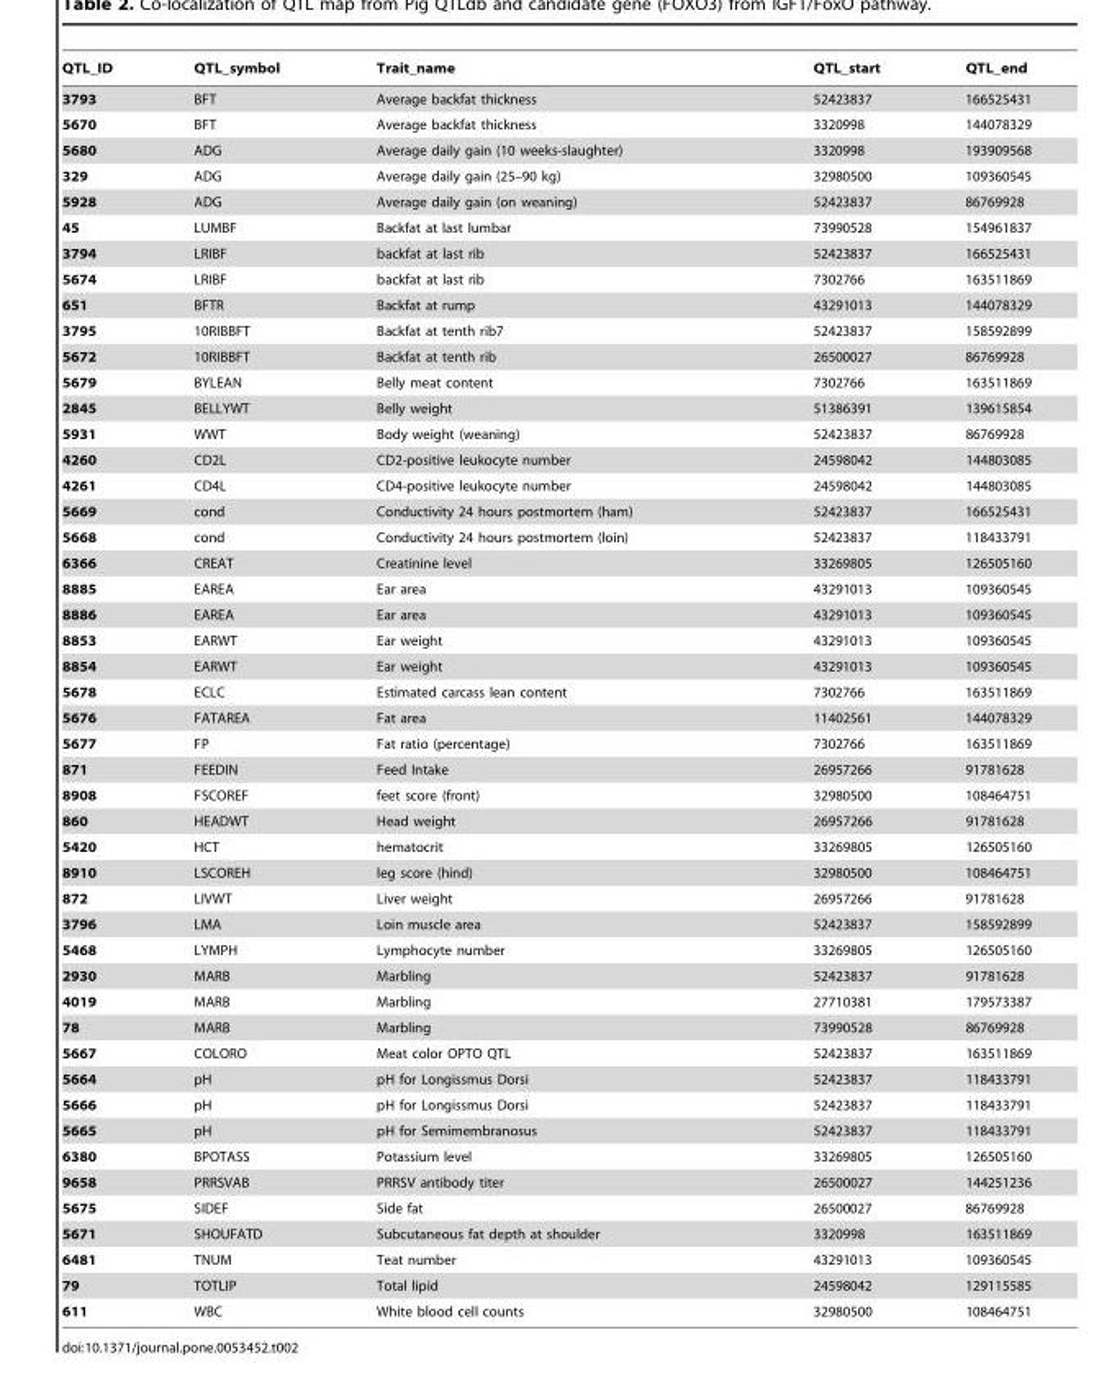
<table><thead><tr><td>QTL_ID</td><td>QTL_symbol</td><td>Trait_name</td><td>QTL_start</td><td>QTL_end</td></tr></thead><tbody><tr><td>3793</td><td>BFT</td><td>Average backfat thickness</td><td>52423837</td><td>166525431</td></tr><tr><td>5670</td><td>BFT</td><td>Average backfat thickness</td><td>3320998</td><td>144078329</td></tr><tr><td>5680</td><td>ADG</td><td>Average daily gain (10 weeks-slaughter)</td><td>3320998</td><td>193909568</td></tr><tr><td>329</td><td>ADG</td><td>Average daily gain (25–90 kg)</td><td>32980500</td><td>109360545</td></tr><tr><td>5928</td><td>ADG</td><td>Average daily gain (on weaning)</td><td>52423837</td><td>86769928</td></tr><tr><td>45</td><td>LUMBF</td><td>Backfat at last lumbar</td><td>73990528</td><td>154961837</td></tr><tr><td>3794</td><td>LRIBF</td><td>backfat at last rib</td><td>52423837</td><td>166525431</td></tr><tr><td>5674</td><td>LRIBF</td><td>backfat at last rib</td><td>7302766</td><td>163511869</td></tr><tr><td>651</td><td>BFTR</td><td>Backfat at rump</td><td>43291013</td><td>144078329</td></tr><tr><td>3795</td><td>10RIBBFT</td><td>Backfat at tenth rib7</td><td>52423837</td><td>158592899</td></tr><tr><td>5672</td><td>10RIBBFT</td><td>Backfat at tenth rib</td><td>26500027</td><td>86769928</td></tr><tr><td>5679</td><td>BYLEAN</td><td>Belly meat content</td><td>7302766</td><td>163511869</td></tr><tr><td>2845</td><td>BELLYWT</td><td>Belly weight</td><td>51386391</td><td>139615854</td></tr><tr><td>5931</td><td>WWT</td><td>Body weight (weaning)</td><td>52423837</td><td>86769928</td></tr><tr><td>4260</td><td>CD2L</td><td>CD2-positive leukocyte number</td><td>24598042</td><td>144803085</td></tr><tr><td>4261</td><td>CD4L</td><td>CD4-positive leukocyte number</td><td>24598042</td><td>144803085</td></tr><tr><td>5669</td><td>cond</td><td>Conductivity 24 hours postmortem (ham)</td><td>52423837</td><td>166525431</td></tr><tr><td>5668</td><td>cond</td><td>Conductivity 24 hours postmortem (loin)</td><td>52423837</td><td>118433791</td></tr><tr><td>6366</td><td>CREAT</td><td>Creatinine level</td><td>33269805</td><td>126505160</td></tr><tr><td>8885</td><td>EAREA</td><td>Ear area</td><td>43291013</td><td>109360545</td></tr><tr><td>8886</td><td>EAREA</td><td>Ear area</td><td>43291013</td><td>109360545</td></tr><tr><td>8853</td><td>EARWT</td><td>Ear weight</td><td>43291013</td><td>109360545</td></tr><tr><td>8854</td><td>EARWT</td><td>Ear weight</td><td>43291013</td><td>109360545</td></tr><tr><td>5678</td><td>ECLC</td><td>Estimated carcass lean content</td><td>7302766</td><td>163511869</td></tr><tr><td>5676</td><td>FATAREA</td><td>Fat area</td><td>11402561</td><td>144078329</td></tr><tr><td>5677</td><td>FP</td><td>Fat ratio (percentage)</td><td>7302766</td><td>163511869</td></tr><tr><td>871</td><td>FEEDIN</td><td>Feed Intake</td><td>26957266</td><td>91781628</td></tr><tr><td>8908</td><td>FSCOREF</td><td>feet score (front)</td><td>32980500</td><td>108464751</td></tr><tr><td>860</td><td>HEADWT</td><td>Head weight</td><td>26957266</td><td>91781628</td></tr><tr><td>5420</td><td>HCT</td><td>hematocrit</td><td>33269805</td><td>126505160</td></tr><tr><td>8910</td><td>LSCOREH</td><td>leg score (hind)</td><td>32980500</td><td>108464751</td></tr><tr><td>872</td><td>LIVWT</td><td>Liver weight</td><td>26957266</td><td>91781628</td></tr><tr><td>3796</td><td>LMA</td><td>Loin muscle area</td><td>52423837</td><td>158592899</td></tr><tr><td>5468</td><td>LYMPH</td><td>Lymphocyte number</td><td>33269805</td><td>126505160</td></tr><tr><td>2930</td><td>MARB</td><td>Marbling</td><td>52423837</td><td>91781628</td></tr><tr><td>4019</td><td>MARB</td><td>Marbling</td><td>27710381</td><td>179573387</td></tr><tr><td>78</td><td>MARB</td><td>Marbling</td><td>73990528</td><td>86769928</td></tr><tr><td>5667</td><td>COLORO</td><td>Meat color OPTO QTL</td><td>52423837</td><td>163511869</td></tr><tr><td>5664</td><td>pH</td><td>pH for Longissmus Dorsi</td><td>52423837</td><td>118433791</td></tr><tr><td>5666</td><td>pH</td><td>pH for Longissmus Dorsi</td><td>52423837</td><td>118433791</td></tr><tr><td>5665</td><td>pH</td><td>pH for Semimembranosus</td><td>52423837</td><td>118433791</td></tr><tr><td>6380</td><td>BPOTASS</td><td>Potassium level</td><td>33269805</td><td>126505160</td></tr><tr><td>9658</td><td>PRRSVAB</td><td>PRRSV antibody titer</td><td>26500027</td><td>144251236</td></tr><tr><td>5675</td><td>SIDEF</td><td>Side fat</td><td>26500027</td><td>86769928</td></tr><tr><td>5671</td><td>SHOUFATD</td><td>Subcutaneous fat depth at shoulder</td><td>3320998</td><td>163511869</td></tr><tr><td>6481</td><td>TNUM</td><td>Teat number</td><td>43291013</td><td>109360545</td></tr><tr><td>79</td><td>TOTLIP</td><td>Total lipid</td><td>24598042</td><td>129115585</td></tr><tr><td>611</td><td>WBC</td><td>White blood cell counts</td><td>32980500</td><td>108464751</td></tr></tbody></table>